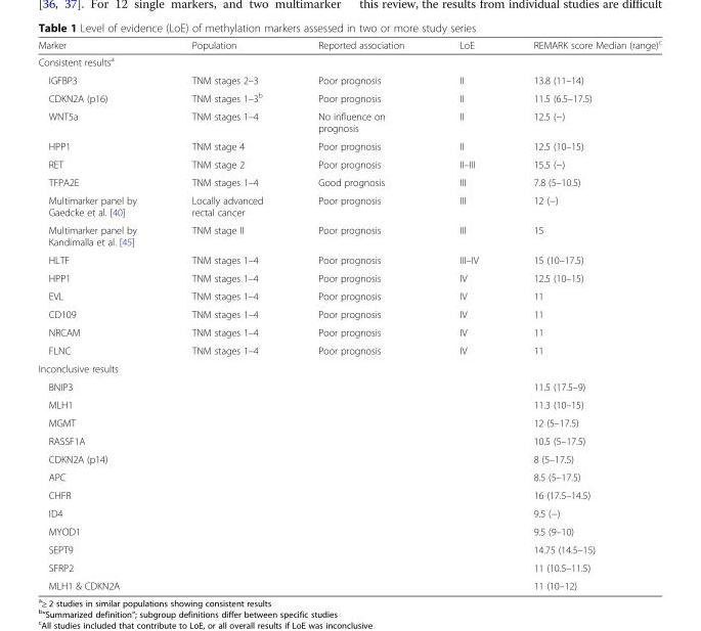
<table><thead><tr><td>Marker</td><td>Population</td><td>Reported association</td><td>LoE</td><td>REMARK score Median (range)<sup>c</sup></td></tr></thead><tbody><tr><td colspan="5">Consistent results<sup>a</sup></td></tr><tr><td>IGFBP3</td><td>TNM stages 2–3</td><td>Poor prognosis</td><td>II</td><td>13.8 (11–14)</td></tr><tr><td>CDKN2A (p16)</td><td>TNM stages 1–3<sup>b</sup></td><td>Poor prognosis</td><td>II</td><td>11.5 (6.5–17.5)</td></tr><tr><td>WNT5a</td><td>TNM stages 1–4</td><td>No influence on prognosis</td><td>II</td><td>12.5 (−)</td></tr><tr><td>HPP1</td><td>TNM stage 4</td><td>Poor prognosis</td><td>II</td><td>12.5 (10–15)</td></tr><tr><td>RET</td><td>TNM stage 2</td><td>Poor prognosis</td><td>II–III</td><td>15.5 (−)</td></tr><tr><td>TFPA2E</td><td>TNM stages 1–4</td><td>Good prognosis</td><td>III</td><td>7.8 (5–10.5)</td></tr><tr><td>Multimarker panel by Gaedcke et al. [40]</td><td>Locally advanced rectal cancer</td><td>Poor prognosis</td><td>III</td><td>12 (−)</td></tr><tr><td>Multimarker panel by Kandimalla et al. [45]</td><td>TNM stage II</td><td>Poor prognosis</td><td>III</td><td>15</td></tr><tr><td>HLTF</td><td>TNM stages 1–4</td><td>Poor prognosis</td><td>III–IV</td><td>15 (10–17.5)</td></tr><tr><td>HPP1</td><td>TNM stages 1–4</td><td>Poor prognosis</td><td>IV</td><td>12.5 (10–15)</td></tr><tr><td>EVL</td><td>TNM stages 1–4</td><td>Poor prognosis</td><td>IV</td><td>11</td></tr><tr><td>CD109</td><td>TNM stages 1–4</td><td>Poor prognosis</td><td>IV</td><td>11</td></tr><tr><td>NRCAM</td><td>TNM stages 1–4</td><td>Poor prognosis</td><td>IV</td><td>11</td></tr><tr><td>FLNC</td><td>TNM stages 1–4</td><td>Poor prognosis</td><td>IV</td><td>11</td></tr><tr><td colspan="5">Inconclusive results</td></tr><tr><td>BNIP3</td><td></td><td></td><td></td><td>11.5 (17.5–9)</td></tr><tr><td>MLH1</td><td></td><td></td><td></td><td>11.3 (10–15)</td></tr><tr><td>MGMT</td><td></td><td></td><td></td><td>12 (5–17.5)</td></tr><tr><td>RASSF1A</td><td></td><td></td><td></td><td>10.5 (5–17.5)</td></tr><tr><td>CDKN2A (p14)</td><td></td><td></td><td></td><td>8 (5–17.5)</td></tr><tr><td>APC</td><td></td><td></td><td></td><td>8.5 (5–17.5)</td></tr><tr><td>CHFR</td><td></td><td></td><td></td><td>16 (17.5–14.5)</td></tr><tr><td>ID4</td><td></td><td></td><td></td><td>9.5 (−)</td></tr><tr><td>MYOD1</td><td></td><td></td><td></td><td>9.5 (9–10)</td></tr><tr><td>SEPT9</td><td></td><td></td><td></td><td>14.75 (14.5–15)</td></tr><tr><td>SFRP2</td><td></td><td></td><td></td><td>11 (10.5–11.5)</td></tr><tr><td>MLH1 &amp; CDKN2A</td><td></td><td></td><td></td><td>11 (10–12)</td></tr></tbody></table>